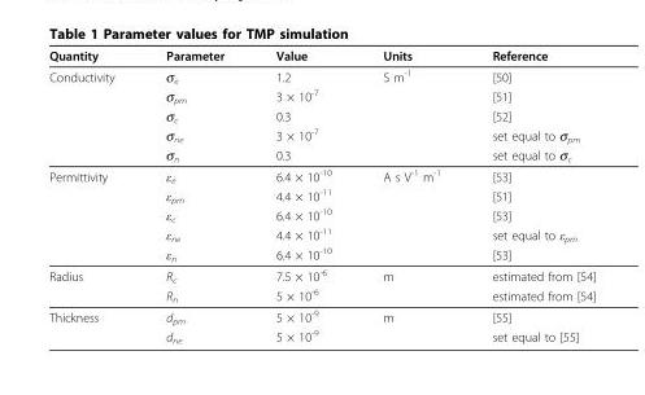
<table><thead><tr><td>Quantity</td><td>Parameter</td><td>Value</td><td>Units</td><td>Reference</td></tr></thead><tbody><tr><td rowspan="5">Conductivity</td><td>σ<sub>e</sub></td><td>1.2</td><td>S m<sup>-1</sup></td><td>[50]</td></tr><tr><td>σ<sub>pm</sub></td><td>3 × 10<sup>-7</sup></td><td></td><td>[51]</td></tr><tr><td>σ<sub>c</sub></td><td>0.3</td><td></td><td>[52]</td></tr><tr><td>σ<sub>ne</sub></td><td>3 × 10<sup>-7</sup></td><td></td><td>set equal to σ<sub>pm</sub></td></tr><tr><td>σ<sub>n</sub></td><td>0.3</td><td></td><td>set equal to σ<sub>c</sub></td></tr><tr><td rowspan="5">Permittivity</td><td>ε<sub>e</sub></td><td>6.4 × 10<sup>-10</sup></td><td>A s V<sup>-1</sup> m<sup>-1</sup></td><td>[53]</td></tr><tr><td>ε<sub>pm</sub></td><td>4.4 × 10<sup>-11</sup></td><td></td><td>[51]</td></tr><tr><td>ε<sub>c</sub></td><td>6.4 × 10<sup>-10</sup></td><td></td><td>[53]</td></tr><tr><td>ε<sub>ne</sub></td><td>4.4 × 10<sup>-11</sup></td><td></td><td>set equal to ε<sub>pm</sub></td></tr><tr><td>ε<sub>n</sub></td><td>6.4 × 10<sup>-10</sup></td><td></td><td>[53]</td></tr><tr><td rowspan="2">Radius</td><td>R<sub>c</sub></td><td>7.5 × 10<sup>-6</sup></td><td>m</td><td>estimated from [54]</td></tr><tr><td>R<sub>n</sub></td><td>5 × 10<sup>-6</sup></td><td></td><td>estimated from [54]</td></tr><tr><td rowspan="2">Thickness</td><td>d<sub>pm</sub></td><td>5 × 10<sup>-9</sup></td><td>m</td><td>[55]</td></tr><tr><td>d<sub>ne</sub></td><td>5 × 10<sup>-9</sup></td><td></td><td>set equal to [55]</td></tr></tbody></table>